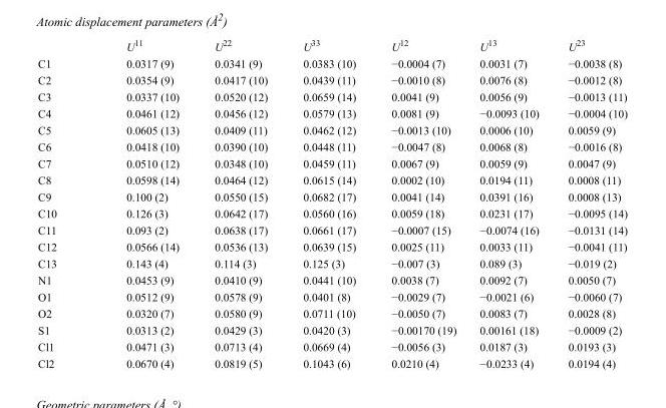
<table><thead><tr><td></td><td>U<sup>11</sup></td><td>U<sup>22</sup></td><td>U<sup>33</sup></td><td>U<sup>12</sup></td><td>U<sup>13</sup></td><td>U<sup>23</sup></td></tr></thead><tbody><tr><td>C1</td><td>0.0317 (9)</td><td>0.0341 (9)</td><td>0.0383 (10)</td><td>−0.0004 (7)</td><td>0.0031 (7)</td><td>−0.0038 (8)</td></tr><tr><td>C2</td><td>0.0354 (9)</td><td>0.0417 (10)</td><td>0.0439 (11)</td><td>−0.0010 (8)</td><td>0.0076 (8)</td><td>−0.0012 (8)</td></tr><tr><td>C3</td><td>0.0337 (10)</td><td>0.0520 (12)</td><td>0.0659 (14)</td><td>0.0041 (9)</td><td>0.0056 (9)</td><td>−0.0013 (11)</td></tr><tr><td>C4</td><td>0.0461 (12)</td><td>0.0456 (12)</td><td>0.0579 (13)</td><td>0.0081 (9)</td><td>−0.0093 (10)</td><td>−0.0004 (10)</td></tr><tr><td>C5</td><td>0.0605 (13)</td><td>0.0409 (11)</td><td>0.0462 (12)</td><td>−0.0013 (10)</td><td>0.0006 (10)</td><td>0.0059 (9)</td></tr><tr><td>C6</td><td>0.0418 (10)</td><td>0.0390 (10)</td><td>0.0448 (11)</td><td>−0.0047 (8)</td><td>0.0068 (8)</td><td>−0.0016 (8)</td></tr><tr><td>C7</td><td>0.0510 (12)</td><td>0.0348 (10)</td><td>0.0459 (11)</td><td>0.0067 (9)</td><td>0.0059 (9)</td><td>0.0047 (9)</td></tr><tr><td>C8</td><td>0.0598 (14)</td><td>0.0464 (12)</td><td>0.0615 (14)</td><td>0.0002 (10)</td><td>0.0194 (11)</td><td>0.0008 (11)</td></tr><tr><td>C9</td><td>0.100 (2)</td><td>0.0550 (15)</td><td>0.0682 (17)</td><td>0.0041 (14)</td><td>0.0391 (16)</td><td>0.0008 (13)</td></tr><tr><td>C10</td><td>0.126 (3)</td><td>0.0642 (17)</td><td>0.0560 (16)</td><td>0.0059 (18)</td><td>0.0231 (17)</td><td>−0.0095 (14)</td></tr><tr><td>C11</td><td>0.093 (2)</td><td>0.0638 (17)</td><td>0.0661 (17)</td><td>−0.0007 (15)</td><td>−0.0074 (16)</td><td>−0.0131 (14)</td></tr><tr><td>C12</td><td>0.0566 (14)</td><td>0.0536 (13)</td><td>0.0639 (15)</td><td>0.0025 (11)</td><td>0.0033 (11)</td><td>−0.0041 (11)</td></tr><tr><td>C13</td><td>0.143 (4)</td><td>0.114 (3)</td><td>0.125 (3)</td><td>−0.007 (3)</td><td>0.089 (3)</td><td>−0.019 (2)</td></tr><tr><td>N1</td><td>0.0453 (9)</td><td>0.0410 (9)</td><td>0.0441 (10)</td><td>0.0038 (7)</td><td>0.0092 (7)</td><td>0.0050 (7)</td></tr><tr><td>O1</td><td>0.0512 (9)</td><td>0.0578 (9)</td><td>0.0401 (8)</td><td>−0.0029 (7)</td><td>−0.0021 (6)</td><td>−0.0060 (7)</td></tr><tr><td>O2</td><td>0.0320 (7)</td><td>0.0580 (9)</td><td>0.0711 (10)</td><td>−0.0050 (7)</td><td>0.0083 (7)</td><td>0.0028 (8)</td></tr><tr><td>S1</td><td>0.0313 (2)</td><td>0.0429 (3)</td><td>0.0420 (3)</td><td>−0.00170 (19)</td><td>0.00161 (18)</td><td>−0.0009 (2)</td></tr><tr><td>Cl1</td><td>0.0471 (3)</td><td>0.0713 (4)</td><td>0.0669 (4)</td><td>−0.0056 (3)</td><td>0.0187 (3)</td><td>0.0193 (3)</td></tr><tr><td>Cl2</td><td>0.0670 (4)</td><td>0.0819 (5)</td><td>0.1043 (6)</td><td>0.0210 (4)</td><td>−0.0233 (4)</td><td>0.0194 (4)</td></tr></tbody></table>